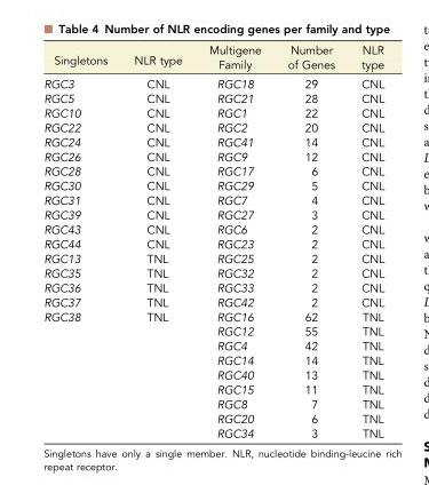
<table><thead><tr><td>Singletons</td><td>NLR type</td><td>Multigene Family</td><td>Number of Genes</td><td>NLR type</td></tr></thead><tbody><tr><td>RGC3</td><td>CNL</td><td>RGC18</td><td>29</td><td>CNL</td></tr><tr><td>RGC5</td><td>CNL</td><td>RGC21</td><td>28</td><td>CNL</td></tr><tr><td>RGC10</td><td>CNL</td><td>RGC1</td><td>22</td><td>CNL</td></tr><tr><td>RGC22</td><td>CNL</td><td>RGC2</td><td>20</td><td>CNL</td></tr><tr><td>RGC24</td><td>CNL</td><td>RGC41</td><td>14</td><td>CNL</td></tr><tr><td>RGC26</td><td>CNL</td><td>RGC9</td><td>12</td><td>CNL</td></tr><tr><td>RGC28</td><td>CNL</td><td>RGC17</td><td>6</td><td>CNL</td></tr><tr><td>RGC30</td><td>CNL</td><td>RGC29</td><td>5</td><td>CNL</td></tr><tr><td>RGC31</td><td>CNL</td><td>RGC7</td><td>4</td><td>CNL</td></tr><tr><td>RGC39</td><td>CNL</td><td>RGC27</td><td>3</td><td>CNL</td></tr><tr><td>RGC43</td><td>CNL</td><td>RGC6</td><td>2</td><td>CNL</td></tr><tr><td>RGC44</td><td>CNL</td><td>RGC23</td><td>2</td><td>CNL</td></tr><tr><td>RGC13</td><td>TNL</td><td>RGC25</td><td>2</td><td>CNL</td></tr><tr><td>RGC35</td><td>TNL</td><td>RGC32</td><td>2</td><td>CNL</td></tr><tr><td>RGC36</td><td>TNL</td><td>RGC33</td><td>2</td><td>CNL</td></tr><tr><td>RGC37</td><td>TNL</td><td>RGC42</td><td>2</td><td>CNL</td></tr><tr><td rowspan="9">RGC38</td><td>TNL</td><td>RGC16</td><td>62</td><td>TNL</td></tr><tr><td></td><td>RGC12</td><td>55</td><td>TNL</td></tr><tr><td></td><td>RGC4</td><td>42</td><td>TNL</td></tr><tr><td></td><td>RGC14</td><td>14</td><td>TNL</td></tr><tr><td></td><td>RGC40</td><td>13</td><td>TNL</td></tr><tr><td></td><td>RGC15</td><td>11</td><td>TNL</td></tr><tr><td></td><td>RGC8</td><td>7</td><td>TNL</td></tr><tr><td></td><td>RGC20</td><td>6</td><td>TNL</td></tr><tr><td></td><td>RGC34</td><td>3</td><td>TNL</td></tr></tbody></table>